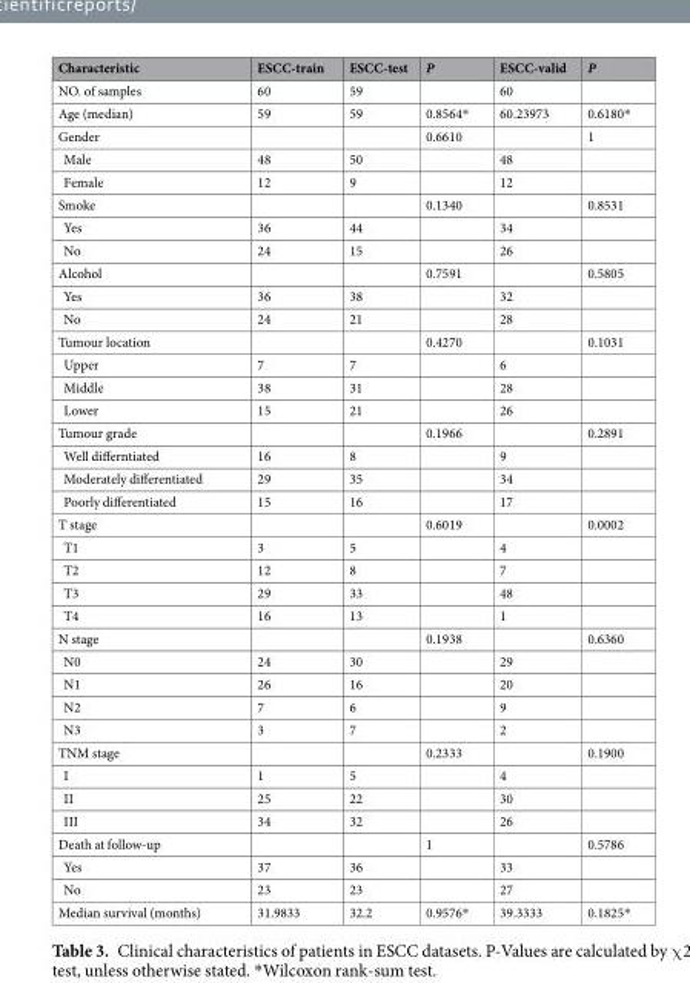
<table><thead><tr><td>Characteristic</td><td>ESCC-train</td><td>ESCC-test</td><td>P</td><td>ESCC-valid</td><td>P</td></tr></thead><tbody><tr><td>NO. of samples</td><td>60</td><td>59</td><td></td><td>60</td><td></td></tr><tr><td>Age (median)</td><td>59</td><td>59</td><td>0.8564*</td><td>60.23973</td><td>0.6180*</td></tr><tr><td>Gender</td><td></td><td></td><td>0.6610</td><td></td><td>1</td></tr><tr><td>Male</td><td>48</td><td>50</td><td></td><td>48</td><td></td></tr><tr><td>Female</td><td>12</td><td>9</td><td></td><td>12</td><td></td></tr><tr><td>Smoke</td><td></td><td></td><td>0.1340</td><td></td><td>0.8531</td></tr><tr><td>Yes</td><td>36</td><td>44</td><td></td><td>34</td><td></td></tr><tr><td>No</td><td>24</td><td>15</td><td></td><td>26</td><td></td></tr><tr><td>Alcohol</td><td></td><td></td><td>0.7591</td><td></td><td>0.5805</td></tr><tr><td>Yes</td><td>36</td><td>38</td><td></td><td>32</td><td></td></tr><tr><td>No</td><td>24</td><td>21</td><td></td><td>28</td><td></td></tr><tr><td>Tumour location</td><td></td><td></td><td>0.4270</td><td></td><td>0.1031</td></tr><tr><td>Upper</td><td>7</td><td>7</td><td></td><td>6</td><td></td></tr><tr><td>Middle</td><td>38</td><td>31</td><td></td><td>28</td><td></td></tr><tr><td>Lower</td><td>15</td><td>21</td><td></td><td>26</td><td></td></tr><tr><td>Tumour grade</td><td></td><td></td><td>0.1966</td><td></td><td>0.2891</td></tr><tr><td>Well differntiated</td><td>16</td><td>8</td><td></td><td>9</td><td></td></tr><tr><td>Moderately differentiated</td><td>29</td><td>35</td><td></td><td>34</td><td></td></tr><tr><td>Poorly differentiated</td><td>15</td><td>16</td><td></td><td>17</td><td></td></tr><tr><td>T stage</td><td></td><td></td><td>0.6019</td><td></td><td>0.0002</td></tr><tr><td>T1</td><td>3</td><td>5</td><td></td><td>4</td><td></td></tr><tr><td>T2</td><td>12</td><td>8</td><td></td><td>7</td><td></td></tr><tr><td>T3</td><td>29</td><td>33</td><td></td><td>48</td><td></td></tr><tr><td>T4</td><td>16</td><td>13</td><td></td><td>1</td><td></td></tr><tr><td>N stage</td><td></td><td></td><td>0.1938</td><td></td><td>0.6360</td></tr><tr><td>N0</td><td>24</td><td>30</td><td></td><td>29</td><td></td></tr><tr><td>N1</td><td>26</td><td>16</td><td></td><td>20</td><td></td></tr><tr><td>N2</td><td>7</td><td>6</td><td></td><td>9</td><td></td></tr><tr><td>N3</td><td>3</td><td>7</td><td></td><td>2</td><td></td></tr><tr><td>TNM stage</td><td></td><td></td><td>0.2333</td><td></td><td>0.1900</td></tr><tr><td>I</td><td>1</td><td>5</td><td></td><td>4</td><td></td></tr><tr><td>II</td><td>25</td><td>22</td><td></td><td>30</td><td></td></tr><tr><td>III</td><td>34</td><td>32</td><td></td><td>26</td><td></td></tr><tr><td>Death at follow-up</td><td></td><td></td><td>1</td><td></td><td>0.5786</td></tr><tr><td>Yes</td><td>37</td><td>36</td><td></td><td>33</td><td></td></tr><tr><td>No</td><td>23</td><td>23</td><td></td><td>27</td><td></td></tr><tr><td>Median survival (months)</td><td>31.9833</td><td>32.2</td><td>0.9576*</td><td>39.3333</td><td>0.1825*</td></tr></tbody></table>